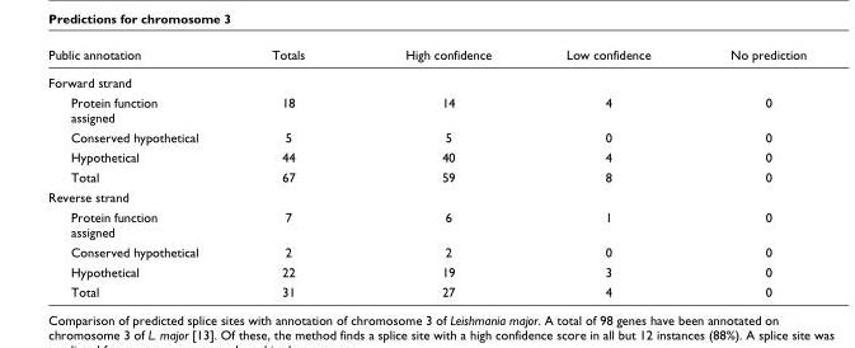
<table><thead><tr><td>Public annotation</td><td>Totals</td><td>High confidence</td><td>Low confidence</td><td>No prediction</td></tr></thead><tbody><tr><td colspan="5">Forward strand</td></tr><tr><td>Protein function assigned</td><td>18</td><td>14</td><td>4</td><td>0</td></tr><tr><td>Conserved hypothetical</td><td>5</td><td>5</td><td>0</td><td>0</td></tr><tr><td>Hypothetical</td><td>44</td><td>40</td><td>4</td><td>0</td></tr><tr><td>Total</td><td>67</td><td>59</td><td>8</td><td>0</td></tr><tr><td colspan="5">Reverse strand</td></tr><tr><td>Protein function assigned</td><td>7</td><td>6</td><td>1</td><td>0</td></tr><tr><td>Conserved hypothetical</td><td>2</td><td>2</td><td>0</td><td>0</td></tr><tr><td>Hypothetical</td><td>22</td><td>19</td><td>3</td><td>0</td></tr><tr><td>Total</td><td>31</td><td>27</td><td>4</td><td>0</td></tr></tbody></table>